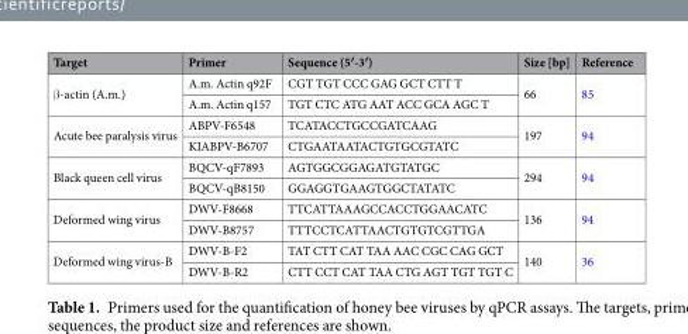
<table><thead><tr><td>Target</td><td>Primer</td><td>Sequence (5′-3′)</td><td>Size [bp]</td><td>Reference</td></tr></thead><tbody><tr><td rowspan="2">β-actin (A.m.)</td><td>A.m. Actin q92F</td><td>CGT TGT CCC GAG GCT CTT T</td><td rowspan="2">66</td><td rowspan="2">85</td></tr><tr><td>A.m. Actin q157</td><td>TGT CTC ATG AAT ACC GCA AGC T</td></tr><tr><td rowspan="2">Acute bee paralysis virus</td><td>ABPV-F6548</td><td>TCATACCTGCCGATCAAG</td><td rowspan="2">197</td><td rowspan="2">94</td></tr><tr><td>KIABPV-B6707</td><td>CTGAATAATACTGTGCGTATC</td></tr><tr><td rowspan="2">Black queen cell virus</td><td>BQCV-qF7893</td><td>AGTGGCGGAGATGTATGC</td><td rowspan="2">294</td><td rowspan="2">94</td></tr><tr><td>BQCV-qB8150</td><td>GGAGGTGAAGTGGCTATATC</td></tr><tr><td rowspan="2">Deformed wing virus</td><td>DWV-F8668</td><td>TTCATTAAAGCCACCTGGAACATC</td><td rowspan="2">136</td><td rowspan="2">94</td></tr><tr><td>DWV-B8757</td><td>TTTCCTCATTAACTGTGTCGTTGA</td></tr><tr><td rowspan="2">Deformed wing virus-B</td><td>DWV-B-F2</td><td>TAT CTT CAT TAA AAC CGC CAG GCT</td><td rowspan="2">140</td><td rowspan="2">36</td></tr><tr><td>DWV-B-R2</td><td>CTT CCT CAT TAA CTG AGT TGT TGT C</td></tr></tbody></table>